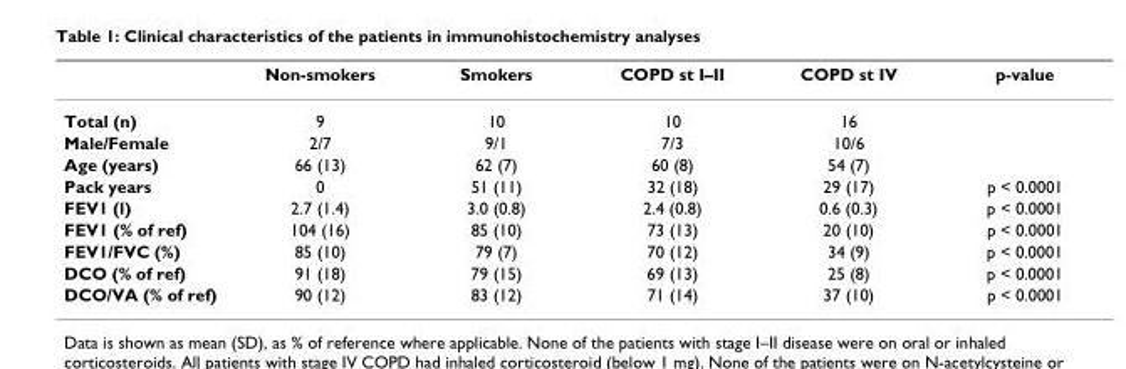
<table><thead><tr><td></td><td>Non-smokers</td><td>Smokers</td><td>COPD st I–II</td><td>COPD st IV</td><td>p-value</td></tr></thead><tbody><tr><td>Total (n)</td><td>9</td><td>10</td><td>10</td><td>16</td><td></td></tr><tr><td>Male/Female</td><td>2/7</td><td>9/1</td><td>7/3</td><td>10/6</td><td></td></tr><tr><td>Age (years)</td><td>66 (13)</td><td>62 (7)</td><td>60 (8)</td><td>54 (7)</td><td></td></tr><tr><td>Pack years</td><td>0</td><td>51 (11)</td><td>32 (18)</td><td>29 (17)</td><td>p &lt; 0.0001</td></tr><tr><td>FEV1 (l)</td><td>2.7 (1.4)</td><td>3.0 (0.8)</td><td>2.4 (0.8)</td><td>0.6 (0.3)</td><td>p &lt; 0.0001</td></tr><tr><td>FEV1 (% of ref)</td><td>104 (16)</td><td>85 (10)</td><td>73 (13)</td><td>20 (10)</td><td>p &lt; 0.0001</td></tr><tr><td>FEV1/FVC (%)</td><td>85 (10)</td><td>79 (7)</td><td>70 (12)</td><td>34 (9)</td><td>p &lt; 0.0001</td></tr><tr><td>DCO (% of ref)</td><td>91 (18)</td><td>79 (15)</td><td>69 (13)</td><td>25 (8)</td><td>p &lt; 0.0001</td></tr><tr><td>DCO/VA (% of ref)</td><td>90 (12)</td><td>83 (12)</td><td>71 (14)</td><td>37 (10)</td><td>p &lt; 0.0001</td></tr></tbody></table>